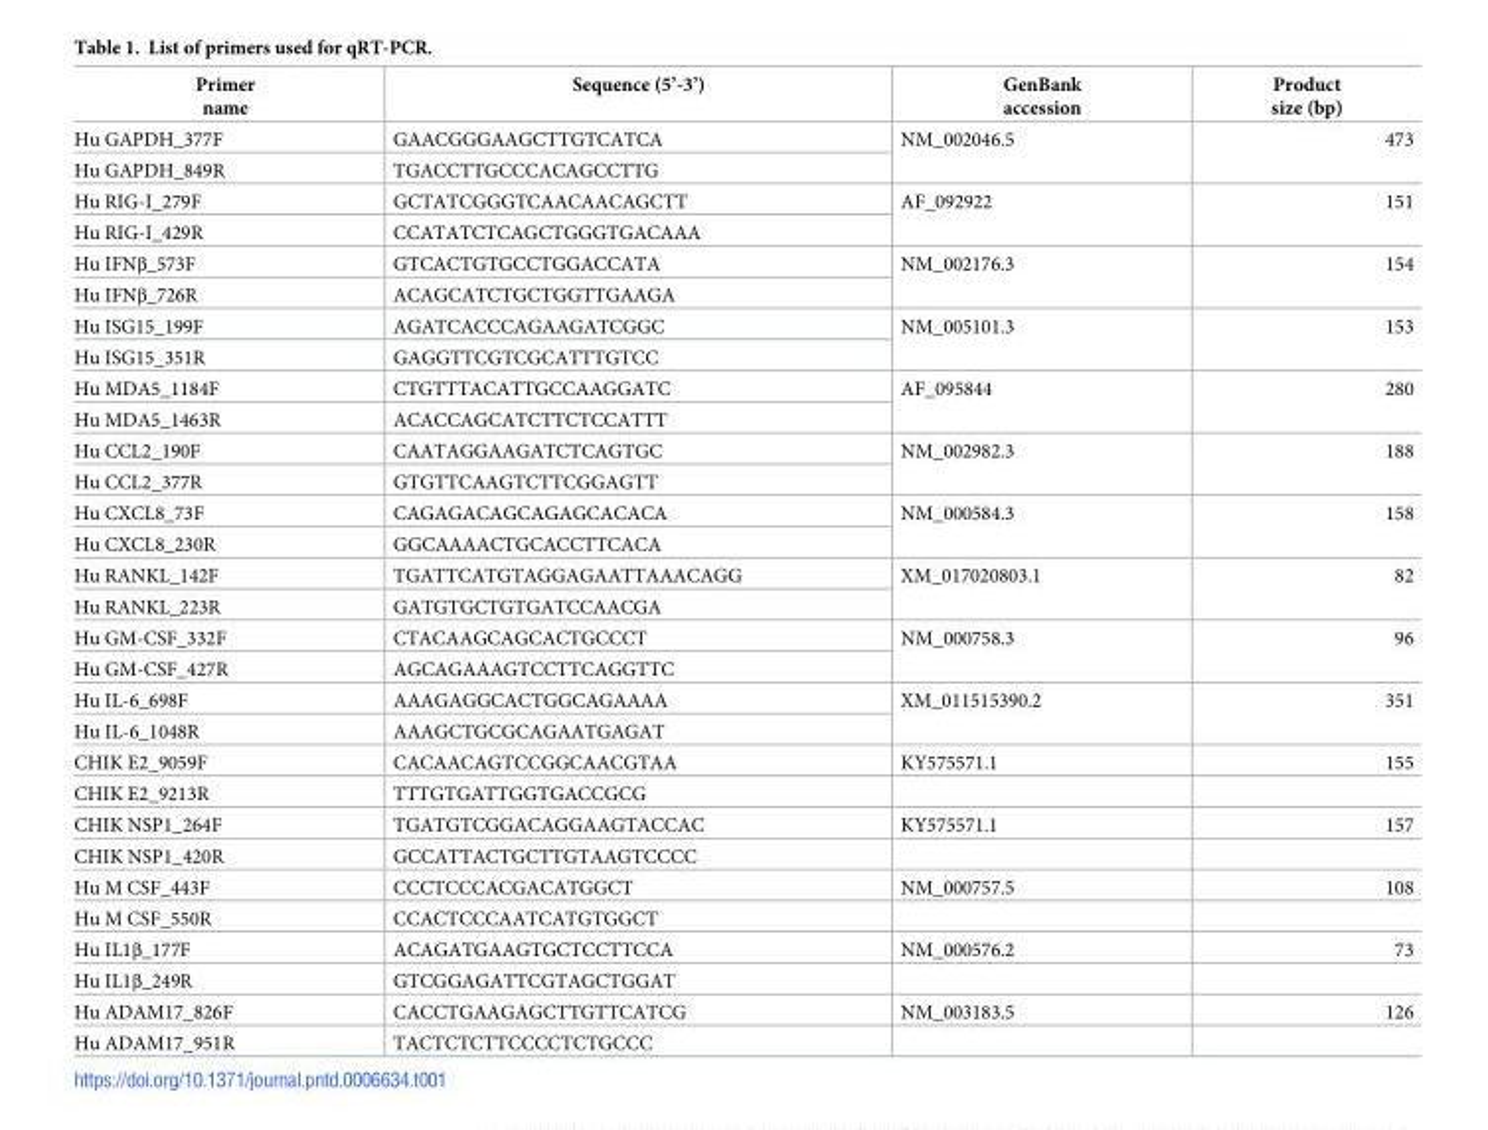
<table><thead><tr><td>Primer name</td><td>Sequence (5’-3’)</td><td>GenBank accession</td><td>Product size (bp)</td></tr></thead><tbody><tr><td>Hu GAPDH_377F</td><td>GAACGGGAAGCTTGTCATCA</td><td rowspan="2">NM_002046.5</td><td rowspan="2">473</td></tr><tr><td>Hu GAPDH_849R</td><td>TGACCTTGCCCACAGCCTTG</td></tr><tr><td>Hu RIG-I_279F</td><td>GCTATCGGGTCAACAACAGCTT</td><td rowspan="2">AF_092922</td><td rowspan="2">151</td></tr><tr><td>Hu RIG-I_429R</td><td>CCATATCTCAGCTGGGTGACAAA</td></tr><tr><td>Hu IFNβ_573F</td><td>GTCACTGTGCCTGGACCATA</td><td rowspan="2">NM_002176.3</td><td rowspan="2">154</td></tr><tr><td>Hu IFNβ_726R</td><td>ACAGCATCTGCTGGTTGAAGA</td></tr><tr><td>Hu ISG15_199F</td><td>AGATCACCCAGAAGATCGGC</td><td rowspan="2">NM_005101.3</td><td rowspan="2">153</td></tr><tr><td>Hu ISG15_351R</td><td>GAGGTTCGTCGCATTTGTCC</td></tr><tr><td>Hu MDA5_1184F</td><td>CTGTTTACATTGCCAAGGATC</td><td rowspan="2">AF_095844</td><td rowspan="2">280</td></tr><tr><td>Hu MDA5_1463R</td><td>ACACCAGCATCTTCTCCATTT</td></tr><tr><td>Hu CCL2_190F</td><td>CAATAGGAAGATCTCAGTGC</td><td rowspan="2">NM_002982.3</td><td rowspan="2">188</td></tr><tr><td>Hu CCL2_377R</td><td>GTGTTCAAGTCTTCGGAGTT</td></tr><tr><td>Hu CXCL8_73F</td><td>CAGAGACAGCAGAGCACACA</td><td rowspan="2">NM_000584.3</td><td rowspan="2">158</td></tr><tr><td>Hu CXCL8_230R</td><td>GGCAAAACTGCACCTTCACA</td></tr><tr><td>Hu RANKL_142F</td><td>TGATTCATGTAGGAGAATTAAACAGG</td><td rowspan="2">XM_017020803.1</td><td rowspan="2">82</td></tr><tr><td>Hu RANKL_223R</td><td>GATGTGCTGTGATCCAACGA</td></tr><tr><td>Hu GM-CSF_332F</td><td>CTACAAGCAGCACTGCCCT</td><td rowspan="2">NM_000758.3</td><td rowspan="2">96</td></tr><tr><td>Hu GM-CSF_427R</td><td>AGCAGAAAGTCCTTCAGGTTC</td></tr><tr><td>Hu IL-6_698F</td><td>AAAGAGGCACTGGCAGAAAA</td><td rowspan="2">XM_011515390.2</td><td rowspan="2">351</td></tr><tr><td>Hu IL-6_1048R</td><td>AAAGCTGCGCAGAATGAGAT</td></tr><tr><td>CHIK E2_9059F</td><td>CACAACAGTCCGGCAACGTAA</td><td>KY575571.1</td><td>155</td></tr><tr><td>CHIK E2_9213R</td><td>TTTGTGATTGGTGACCGCG</td><td></td><td></td></tr><tr><td>CHIK NSP1_264F</td><td>TGATGTCGGACAGGAAGTACCAC</td><td>KY575571.1</td><td>157</td></tr><tr><td>CHIK NSP1_420R</td><td>GCCATTACTGCTTGTAAGTCCCC</td><td></td><td></td></tr><tr><td>Hu M CSF_443F</td><td>CCCTCCCACGACATGGCT</td><td>NM_000757.5</td><td>108</td></tr><tr><td>Hu M CSF_550R</td><td>CCACTCCCAATCATGTGGCT</td><td></td><td></td></tr><tr><td>Hu IL1β_177F</td><td>ACAGATGAAGTGCTCCTTCCA</td><td>NM_000576.2</td><td>73</td></tr><tr><td>Hu IL1β_249R</td><td>GTCGGAGATTCGTAGCTGGAT</td><td></td><td></td></tr><tr><td>Hu ADAM17_826F</td><td>CACCTGAAGAGCTTGTTCATCG</td><td>NM_003183.5</td><td>126</td></tr><tr><td>Hu ADAM17_951R</td><td>TACTCTCTTCCCCTCTGCCC</td><td></td><td></td></tr></tbody></table>